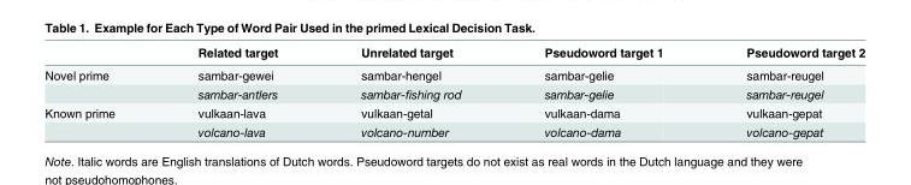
<table><thead><tr><td></td><td>Related target</td><td>Unrelated target</td><td>Pseudoword target 1</td><td>Pseudoword target 2</td></tr></thead><tbody><tr><td rowspan="2">Novel prime</td><td>sambar-gewei</td><td>sambar-hengel</td><td>sambar-gelie</td><td>sambar-reugel</td></tr><tr><td>sambar-antlers</td><td>sambar-fishing rod</td><td>sambar-gelie</td><td>sambar-reugel</td></tr><tr><td rowspan="2">Known prime</td><td>vulkaan-lava</td><td>vulkaan-getal</td><td>vulkaan-dama</td><td>vulkaan-gepat</td></tr><tr><td>volcano-lava</td><td>volcano-number</td><td>volcano-dama</td><td>volcano-gepat</td></tr></tbody></table>